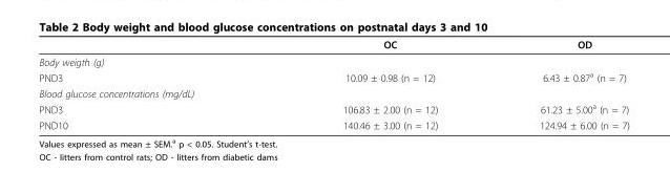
<table><thead><tr><td></td><td>OC</td><td>OD</td></tr></thead><tbody><tr><td colspan="3">Body weigth (g)</td></tr><tr><td>PND3</td><td>10.09 ± 0.98 (n = 12)</td><td>6.43 ± 0.87<sup>a</sup> (n = 7)</td></tr><tr><td colspan="3">Blood glucose concentrations (mg/dL)</td></tr><tr><td>PND3</td><td>106.83 ± 2.00 (n = 12)</td><td>61.23 ± 5.00<sup>a</sup> (n = 7)</td></tr><tr><td>PND10</td><td>140.46 ± 3.00 (n = 12)</td><td>124.94 ± 6.00 (n = 7)</td></tr></tbody></table>